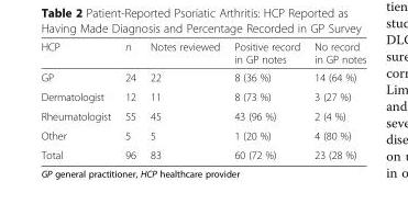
<table><thead><tr><td>HCP</td><td>n</td><td>Notes reviewed</td><td>Positive record in GP notes</td><td>No record in GP notes</td></tr></thead><tbody><tr><td>GP</td><td>24</td><td>22</td><td>8 (36 %)</td><td>14 (64 %)</td></tr><tr><td>Dermatologist</td><td>12</td><td>11</td><td>8 (73 %)</td><td>3 (27 %)</td></tr><tr><td>Rheumatologist</td><td>55</td><td>45</td><td>43 (96 %)</td><td>2 (4 %)</td></tr><tr><td>Other</td><td>5</td><td>5</td><td>1 (20 %)</td><td>4 (80 %)</td></tr><tr><td>Total</td><td>96</td><td>83</td><td>60 (72 %)</td><td>23 (28 %)</td></tr></tbody></table>